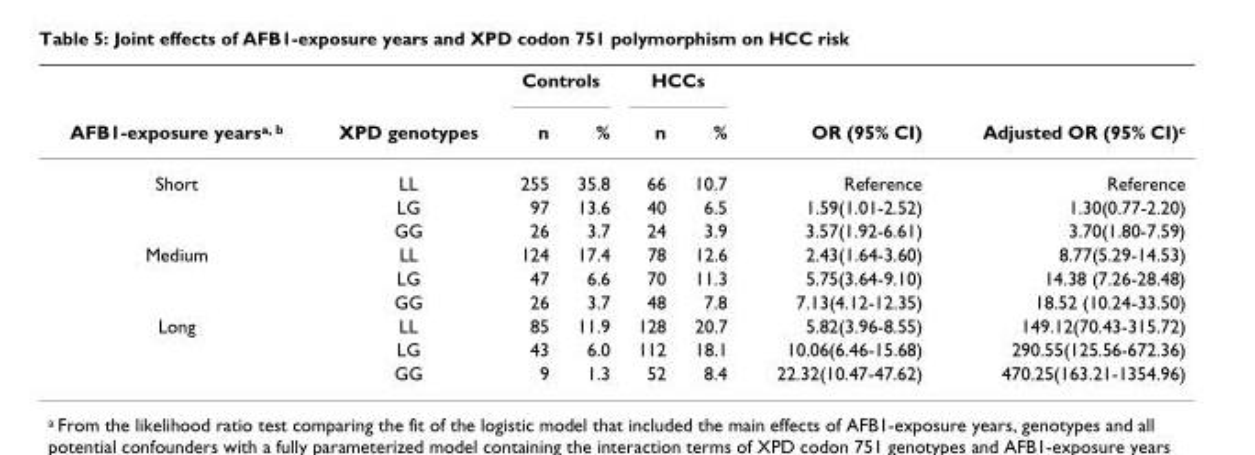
<table><thead><tr><td rowspan="2">AFB1-exposure years<sup>a, b</sup></td><td rowspan="2">XPD genotypes</td><td colspan="2">Controls</td><td colspan="2">HCCs</td><td rowspan="2">OR (95% CI)</td><td rowspan="2">Adjusted OR (95% CI)<sup>c</sup></td></tr><tr><td>n</td><td>%</td><td>n</td><td>%</td></tr></thead><tbody><tr><td rowspan="3">Short</td><td>LL</td><td>255</td><td>35.8</td><td>66</td><td>10.7</td><td>Reference</td><td>Reference</td></tr><tr><td>LG</td><td>97</td><td>13.6</td><td>40</td><td>6.5</td><td>1.59(1.01-2.52)</td><td>1.30(0.77-2.20)</td></tr><tr><td>GG</td><td>26</td><td>3.7</td><td>24</td><td>3.9</td><td>3.57(1.92-6.61)</td><td>3.70(1.80-7.59)</td></tr><tr><td rowspan="3">Medium</td><td>LL</td><td>124</td><td>17.4</td><td>78</td><td>12.6</td><td>2.43(1.64-3.60)</td><td>8.77(5.29-14.53)</td></tr><tr><td>LG</td><td>47</td><td>6.6</td><td>70</td><td>11.3</td><td>5.75(3.64-9.10)</td><td>14.38 (7.26-28.48)</td></tr><tr><td>GG</td><td>26</td><td>3.7</td><td>48</td><td>7.8</td><td>7.13(4.12-12.35)</td><td>18.52 (10.24-33.50)</td></tr><tr><td rowspan="3">Long</td><td>LL</td><td>85</td><td>11.9</td><td>128</td><td>20.7</td><td>5.82(3.96-8.55)</td><td>149.12(70.43-315.72)</td></tr><tr><td>LG</td><td>43</td><td>6.0</td><td>112</td><td>18.1</td><td>10.06(6.46-15.68)</td><td>290.55(125.56-672.36)</td></tr><tr><td>GG</td><td>9</td><td>1.3</td><td>52</td><td>8.4</td><td>22.32(10.47-47.62)</td><td>470.25(163.21-1354.96)</td></tr></tbody></table>